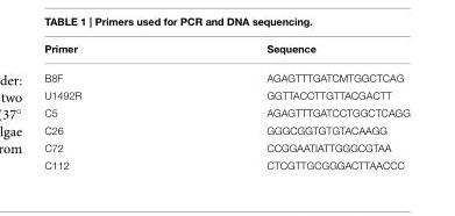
<table><thead><tr><td>Primer</td><td>Sequence</td></tr></thead><tbody><tr><td>B8F</td><td>AGAGTTTGATCMTGGCTCAG</td></tr><tr><td>U1492R</td><td>GGTTACCTTGTTACGACTT</td></tr><tr><td>C5</td><td>AGAGTTTGATCCTGGCTCAGG</td></tr><tr><td>C26</td><td>GGGCGGTGTGTACAAGG</td></tr><tr><td>C72</td><td>CCGGAATIATTGGGCGTAA</td></tr><tr><td>C112</td><td>CTCGTTGCGGGACTTAACCC</td></tr></tbody></table>